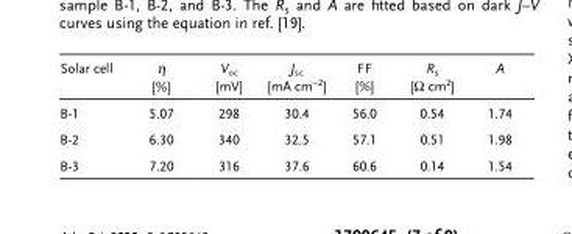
<table><thead><tr><td>Solar cell</td><td>η [%]</td><td>V<sub>oc</sub> [mV]</td><td>J<sub>sc</sub> [mA cm<sup>−2</sup>]</td><td>FF [%]</td><td>R<sub>s</sub> [Ω cm<sup>2</sup>]</td><td>A</td></tr></thead><tbody><tr><td>B-1</td><td>5.07</td><td>298</td><td>30.4</td><td>56.0</td><td>0.54</td><td>1.74</td></tr><tr><td>B-2</td><td>6.30</td><td>340</td><td>32.5</td><td>57.1</td><td>0.51</td><td>1.98</td></tr><tr><td>B-3</td><td>7.20</td><td>316</td><td>37.6</td><td>60.6</td><td>0.14</td><td>1.54</td></tr></tbody></table>